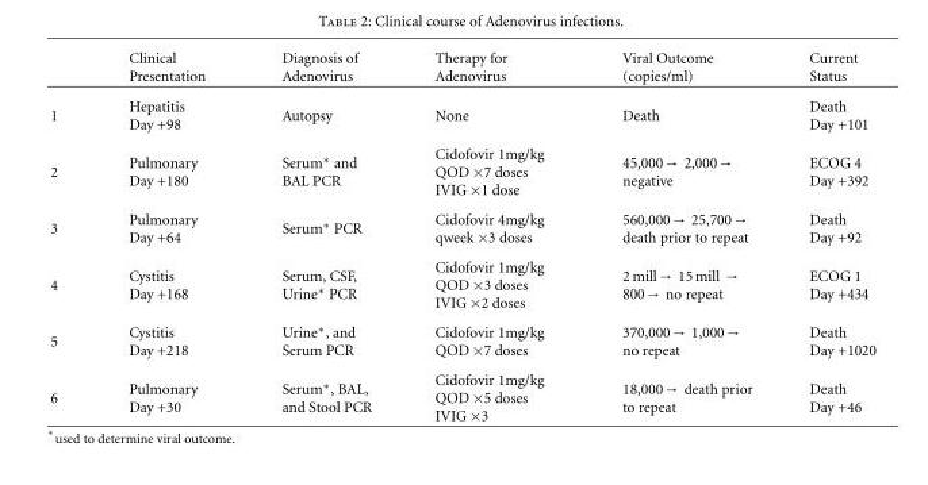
<table><thead><tr><td></td><td>Clinical Presentation</td><td>Diagnosis of Adenovirus</td><td>Therapy for Adenovirus</td><td>Viral Outcome (copies/ml)</td><td>Current Status</td></tr></thead><tbody><tr><td>1</td><td>Hepatitis Day +98</td><td>Autopsy</td><td>None</td><td>Death</td><td>Death Day +101</td></tr><tr><td>2</td><td>Pulmonary Day +180</td><td>Serum∗ and BAL PCR</td><td>Cidofovir 1mg/kg QOD ×7 doses IVIG ×1 dose</td><td>45,000 → 2,000 → negative</td><td>ECOG 4 Day +392</td></tr><tr><td>3</td><td>Pulmonary Day +64</td><td>Serum∗ PCR</td><td>Cidofovir 4mg/kg qweek ×3 doses</td><td>560,000 → 25,700 → death prior to repeat</td><td>Death Day +92</td></tr><tr><td>4</td><td>Cystitis Day +168</td><td>Serum, CSF, Urine∗ PCR</td><td>Cidofovir 1mg/kg QOD ×3 doses IVIG ×2 doses</td><td>2 mill → 15 mill → 800 → no repeat</td><td>ECOG 1 Day +434</td></tr><tr><td>5</td><td>Cystitis Day +218</td><td>Urine∗, and Serum PCR</td><td>Cidofovir 1mg/kg QOD ×7 doses</td><td>370,000 → 1,000 → no repeat</td><td>Death Day +1020</td></tr><tr><td>6</td><td>Pulmonary Day +30</td><td>Serum∗, BAL, and Stool PCR</td><td>Cidofovir 1mg/kg QOD ×5 doses IVIG ×3</td><td>18,000 → death prior to repeat</td><td>Death Day +46</td></tr></tbody></table>